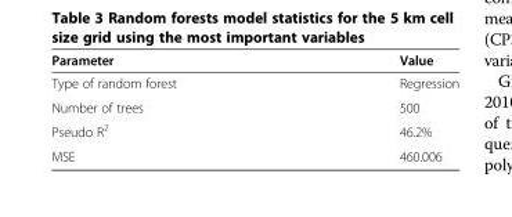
<table><thead><tr><td>Parameter</td><td>Value</td></tr></thead><tbody><tr><td>Type of random forest</td><td>Regression</td></tr><tr><td>Number of trees</td><td>500</td></tr><tr><td>Pseudo R<sup>2</sup></td><td>46.2%</td></tr><tr><td>MSE</td><td>460.006</td></tr></tbody></table>